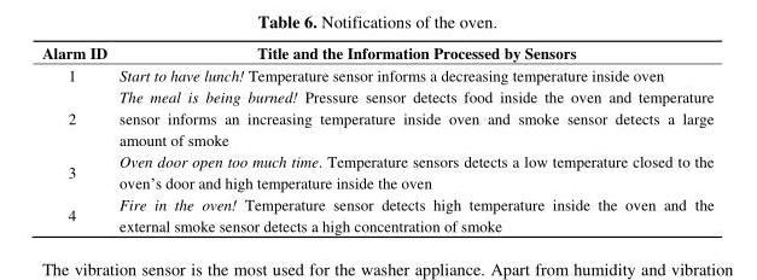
<table><thead><tr><td>Alarm ID</td><td>Title and the Information Processed by Sensors</td></tr></thead><tbody><tr><td>1</td><td>Start to have lunch! Temperature sensor informs a decreasing temperature inside oven</td></tr><tr><td>2</td><td>The meal is being burned! Pressure sensor detects food inside the oven and temperature sensor informs an increasing temperature inside oven and smoke sensor detects a large amount of smoke</td></tr><tr><td>3</td><td>Oven door open too much time. Temperature sensors detects a low temperature closed to the oven’s door and high temperature inside the oven</td></tr><tr><td>4</td><td>Fire in the oven! Temperature sensor detects high temperature inside the oven and the external smoke sensor detects a high concentration of smoke</td></tr></tbody></table>